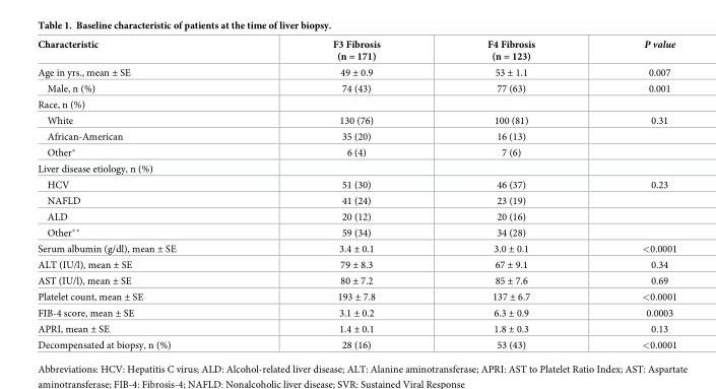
<table><thead><tr><td>Characteristic</td><td>F3 Fibrosis (n = 171)</td><td>F4 Fibrosis (n = 123)</td><td>P value</td></tr></thead><tbody><tr><td>Age in yrs., mean ± SE</td><td>49 ± 0.9</td><td>53 ± 1.1</td><td>0.007</td></tr><tr><td>Male, n (%)</td><td>74 (43)</td><td>77 (63)</td><td>0.001</td></tr><tr><td colspan="4">Race, n (%)</td></tr><tr><td>White</td><td>130 (76)</td><td>100 (81)</td><td>0.31</td></tr><tr><td>African-American</td><td>35 (20)</td><td>16 (13)</td><td></td></tr><tr><td>Other*</td><td>6 (4)</td><td>7 (6)</td><td></td></tr><tr><td colspan="4">Liver disease etiology, n (%)</td></tr><tr><td>HCV</td><td>51 (30)</td><td>46 (37)</td><td>0.23</td></tr><tr><td>NAFLD</td><td>41 (24)</td><td>23 (19)</td><td></td></tr><tr><td>ALD</td><td>20 (12)</td><td>20 (16)</td><td></td></tr><tr><td>Other**</td><td>59 (34)</td><td>34 (28)</td><td></td></tr><tr><td>Serum albumin (g/dl), mean ± SE</td><td>3.4 ± 0.1</td><td>3.0 ± 0.1</td><td>&lt;0.0001</td></tr><tr><td>ALT (IU/l), mean ± SE</td><td>79 ± 8.3</td><td>67 ± 9.1</td><td>0.34</td></tr><tr><td>AST (IU/l), mean ± SE</td><td>80 ± 7.2</td><td>85 ± 7.6</td><td>0.69</td></tr><tr><td>Platelet count, mean ± SE</td><td>193 ± 7.8</td><td>137 ± 6.7</td><td>&lt;0.0001</td></tr><tr><td>FIB-4 score, mean ± SE</td><td>3.1 ± 0.2</td><td>6.3 ± 0.9</td><td>0.0003</td></tr><tr><td>APRI, mean ± SE</td><td>1.4 ± 0.1</td><td>1.8 ± 0.3</td><td>0.13</td></tr><tr><td>Decompensated at biopsy, n (%)</td><td>28 (16)</td><td>53 (43)</td><td>&lt;0.0001</td></tr></tbody></table>